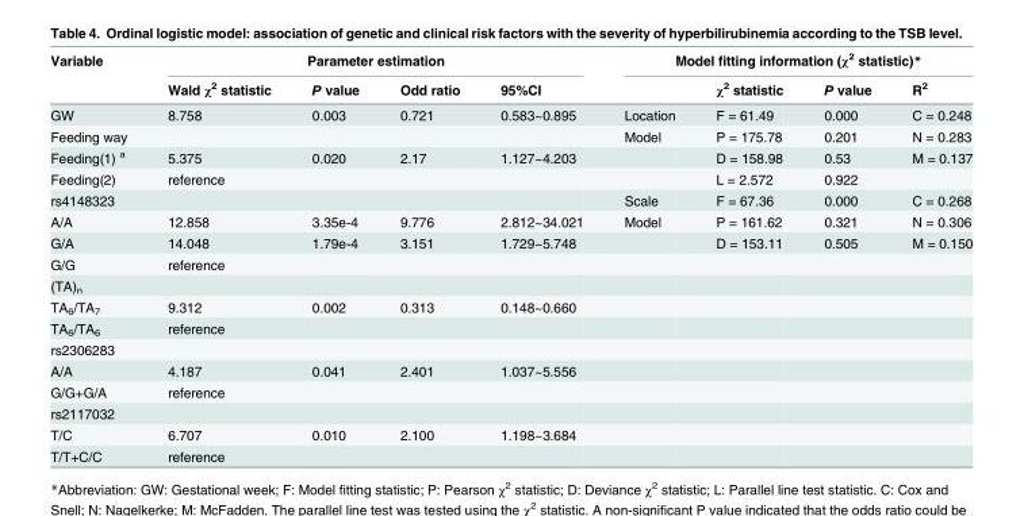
<table><thead><tr><td rowspan="2">Variable</td><td colspan="4">Parameter estimation</td><td colspan="4">Model fitting information (χ<sup>2</sup> statistic)*</td></tr><tr><td>Wald χ<sup>2</sup> statistic</td><td>P value</td><td>Odd ratio</td><td>95%CI</td><td></td><td>χ<sup>2</sup> statistic</td><td>P value</td><td>R<sup>2</sup></td></tr></thead><tbody><tr><td>GW</td><td>8.758</td><td>0.003</td><td>0.721</td><td>0.583~0.895</td><td>Location</td><td>F = 61.49</td><td>0.000</td><td>C = 0.248</td></tr><tr><td>Feeding way</td><td></td><td></td><td></td><td></td><td>Model</td><td>P = 175.78</td><td>0.201</td><td>N = 0.283</td></tr><tr><td>Feeding(1) <sup>a</sup></td><td>5.375</td><td>0.020</td><td>2.17</td><td>1.127~4.203</td><td></td><td>D = 158.98</td><td>0.53</td><td>M = 0.137</td></tr><tr><td>Feeding(2)</td><td>reference</td><td></td><td></td><td></td><td></td><td>L = 2.572</td><td>0.922</td><td></td></tr><tr><td>rs4148323</td><td></td><td></td><td></td><td></td><td>Scale</td><td>F = 67.36</td><td>0.000</td><td>C = 0.268</td></tr><tr><td>A/A</td><td>12.858</td><td>3.35e-4</td><td>9.776</td><td>2.812~34.021</td><td>Model</td><td>P = 161.62</td><td>0.321</td><td>N = 0.306</td></tr><tr><td>G/A</td><td>14.048</td><td>1.79e-4</td><td>3.151</td><td>1.729~5.748</td><td></td><td>D = 153.11</td><td>0.505</td><td>M = 0.150</td></tr><tr><td>G/G</td><td>reference</td><td></td><td></td><td></td><td></td><td></td><td></td><td></td></tr><tr><td colspan="9">(TA)<sub>n</sub></td></tr><tr><td>TA<sub>6</sub>/TA<sub>7</sub></td><td>9.312</td><td>0.002</td><td>0.313</td><td>0.148~0.660</td><td></td><td></td><td></td><td></td></tr><tr><td>TA<sub>6</sub>/TA<sub>6</sub></td><td>reference</td><td></td><td></td><td></td><td></td><td></td><td></td><td></td></tr><tr><td colspan="9">rs2306283</td></tr><tr><td>A/A</td><td>4.187</td><td>0.041</td><td>2.401</td><td>1.037~5.556</td><td></td><td></td><td></td><td></td></tr><tr><td>G/G+G/A</td><td>reference</td><td></td><td></td><td></td><td></td><td></td><td></td><td></td></tr><tr><td colspan="9">rs2117032</td></tr><tr><td>T/C</td><td>6.707</td><td>0.010</td><td>2.100</td><td>1.198~3.684</td><td></td><td></td><td></td><td></td></tr><tr><td>T/T+C/C</td><td>reference</td><td></td><td></td><td></td><td></td><td></td><td></td><td></td></tr></tbody></table>